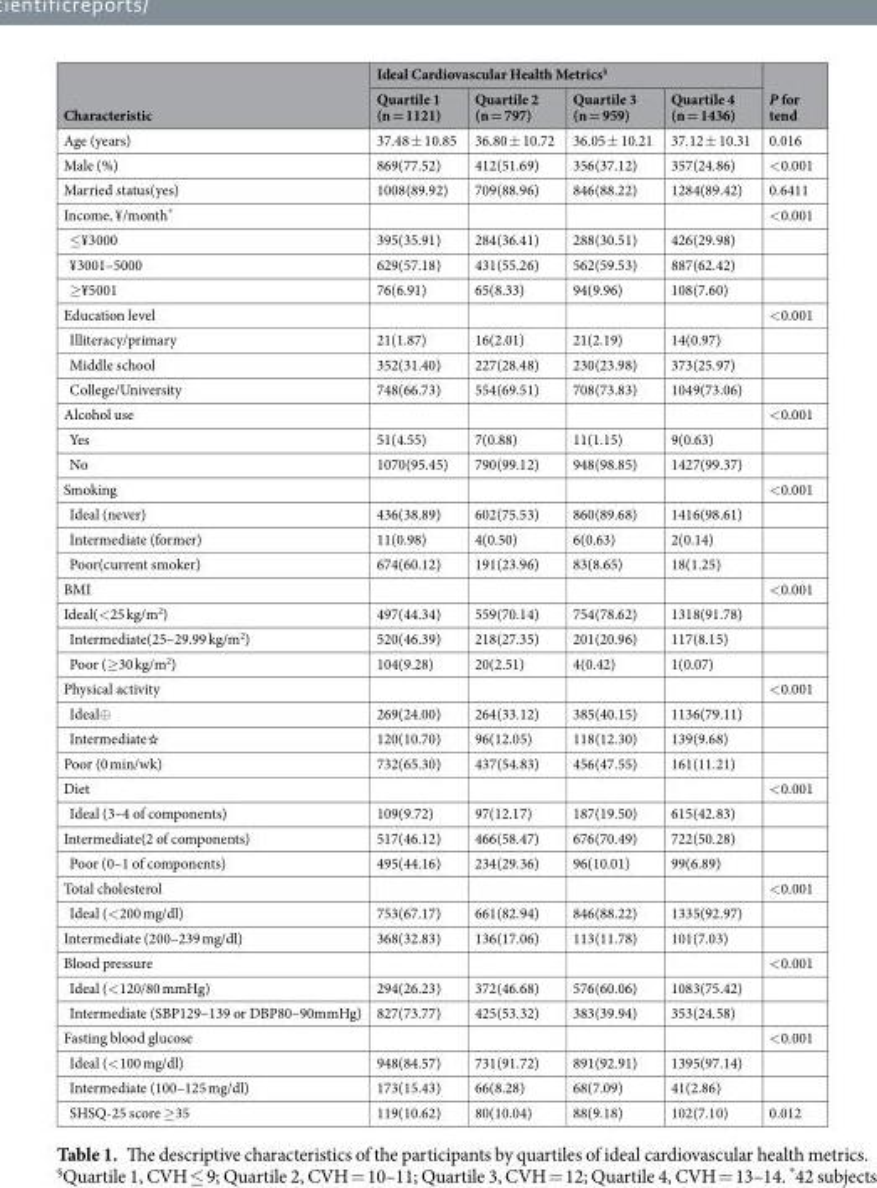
<table><thead><tr><td rowspan="2">Characteristic</td><td colspan="4">Ideal Cardiovascular Health Metrics<sup>§</sup></td><td rowspan="2">P for tend</td></tr><tr><td>Quartile 1 (n = 1121)</td><td>Quartile 2 (n = 797)</td><td>Quartile 3 (n = 959)</td><td>Quartile 4 (n = 1436)</td></tr></thead><tbody><tr><td>Age (years)</td><td>37.48 ± 10.85</td><td>36.80 ± 10.72</td><td>36.05 ± 10.21</td><td>37.12 ± 10.31</td><td>0.016</td></tr><tr><td>Male (%)</td><td>869(77.52)</td><td>412(51.69)</td><td>356(37.12)</td><td>357(24.86)</td><td>&lt;0.001</td></tr><tr><td>Married status(yes)</td><td>1008(89.92)</td><td>709(88.96)</td><td>846(88.22)</td><td>1284(89.42)</td><td>0.6411</td></tr><tr><td>Income, ¥/month*</td><td></td><td></td><td></td><td></td><td>&lt;0.001</td></tr><tr><td>≤¥3000</td><td>395(35.91)</td><td>284(36.41)</td><td>288(30.51)</td><td>426(29.98)</td><td></td></tr><tr><td>¥3001–5000</td><td>629(57.18)</td><td>431(55.26)</td><td>562(59.53)</td><td>887(62.42)</td><td></td></tr><tr><td>≥¥5001</td><td>76(6.91)</td><td>65(8.33)</td><td>94(9.96)</td><td>108(7.60)</td><td></td></tr><tr><td>Education level</td><td></td><td></td><td></td><td></td><td>&lt;0.001</td></tr><tr><td>Illiteracy/primary</td><td>21(1.87)</td><td>16(2.01)</td><td>21(2.19)</td><td>14(0.97)</td><td></td></tr><tr><td>Middle school</td><td>352(31.40)</td><td>227(28.48)</td><td>230(23.98)</td><td>373(25.97)</td><td></td></tr><tr><td>College/University</td><td>748(66.73)</td><td>554(69.51)</td><td>708(73.83)</td><td>1049(73.06)</td><td></td></tr><tr><td>Alcohol use</td><td></td><td></td><td></td><td></td><td>&lt;0.001</td></tr><tr><td>Yes</td><td>51(4.55)</td><td>7(0.88)</td><td>11(1.15)</td><td>9(0.63)</td><td></td></tr><tr><td>No</td><td>1070(95.45)</td><td>790(99.12)</td><td>948(98.85)</td><td>1427(99.37)</td><td></td></tr><tr><td>Smoking</td><td></td><td></td><td></td><td></td><td>&lt;0.001</td></tr><tr><td>Ideal (never)</td><td>436(38.89)</td><td>602(75.53)</td><td>860(89.68)</td><td>1416(98.61)</td><td></td></tr><tr><td>Intermediate (former)</td><td>11(0.98)</td><td>4(0.50)</td><td>6(0.63)</td><td>2(0.14)</td><td></td></tr><tr><td>Poor(current smoker)</td><td>674(60.12)</td><td>191(23.96)</td><td>83(8.65)</td><td>18(1.25)</td><td></td></tr><tr><td>BMI</td><td></td><td></td><td></td><td></td><td>&lt;0.001</td></tr><tr><td>Ideal(&lt;25 kg/m<sup>2</sup>)</td><td>497(44.34)</td><td>559(70.14)</td><td>754(78.62)</td><td>1318(91.78)</td><td></td></tr><tr><td>Intermediate(25–29.99 kg/m<sup>2</sup>)</td><td>520(46.39)</td><td>218(27.35)</td><td>201(20.96)</td><td>117(8.15)</td><td></td></tr><tr><td>Poor (≥30 kg/m<sup>2</sup>)</td><td>104(9.28)</td><td>20(2.51)</td><td>4(0.42)</td><td>1(0.07)</td><td></td></tr><tr><td>Physical activity</td><td></td><td></td><td></td><td></td><td>&lt;0.001</td></tr><tr><td>Ideal⊕</td><td>269(24.00)</td><td>264(33.12)</td><td>385(40.15)</td><td>1136(79.11)</td><td></td></tr><tr><td>Intermediate☆</td><td>120(10.70)</td><td>96(12.05)</td><td>118(12.30)</td><td>139(9.68)</td><td></td></tr><tr><td>Poor (0 min/wk)</td><td>732(65.30)</td><td>437(54.83)</td><td>456(47.55)</td><td>161(11.21)</td><td></td></tr><tr><td>Diet</td><td></td><td></td><td></td><td></td><td>&lt;0.001</td></tr><tr><td>Ideal (3–4 of components)</td><td>109(9.72)</td><td>97(12.17)</td><td>187(19.50)</td><td>615(42.83)</td><td></td></tr><tr><td>Intermediate(2 of components)</td><td>517(46.12)</td><td>466(58.47)</td><td>676(70.49)</td><td>722(50.28)</td><td></td></tr><tr><td>Poor (0–1 of components)</td><td>495(44.16)</td><td>234(29.36)</td><td>96(10.01)</td><td>99(6.89)</td><td></td></tr><tr><td>Total cholesterol</td><td></td><td></td><td></td><td></td><td>&lt;0.001</td></tr><tr><td>Ideal (&lt;200 mg/dl)</td><td>753(67.17)</td><td>661(82.94)</td><td>846(88.22)</td><td>1335(92.97)</td><td></td></tr><tr><td>Intermediate (200–239 mg/dl)</td><td>368(32.83)</td><td>136(17.06)</td><td>113(11.78)</td><td>101(7.03)</td><td></td></tr><tr><td>Blood pressure</td><td></td><td></td><td></td><td></td><td>&lt;0.001</td></tr><tr><td>Ideal (&lt;120/80 mmHg)</td><td>294(26.23)</td><td>372(46.68)</td><td>576(60.06)</td><td>1083(75.42)</td><td></td></tr><tr><td>Intermediate (SBP129–139 or DBP80–90mmHg)</td><td>827(73.77)</td><td>425(53.32)</td><td>383(39.94)</td><td>353(24.58)</td><td></td></tr><tr><td>Fasting blood glucose</td><td></td><td></td><td></td><td></td><td>&lt;0.001</td></tr><tr><td>Ideal (&lt;100 mg/dl)</td><td>948(84.57)</td><td>731(91.72)</td><td>891(92.91)</td><td>1395(97.14)</td><td></td></tr><tr><td>Intermediate (100–125 mg/dl)</td><td>173(15.43)</td><td>66(8.28)</td><td>68(7.09)</td><td>41(2.86)</td><td></td></tr><tr><td>SHSQ-25 score ≥35</td><td>119(10.62)</td><td>80(10.04)</td><td>88(9.18)</td><td>102(7.10)</td><td>0.012</td></tr></tbody></table>